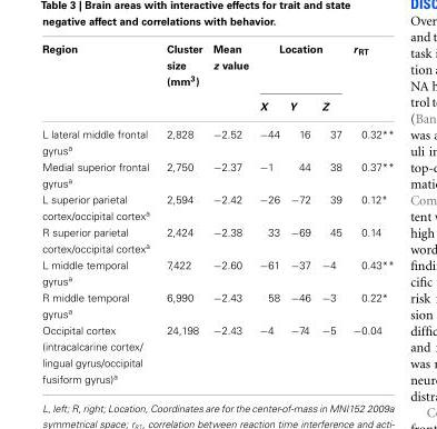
<table><thead><tr><td rowspan="2">Region</td><td rowspan="2">Cluster size (mm<sup>3</sup>)</td><td rowspan="2">Mean z value</td><td colspan="3">Location</td><td rowspan="2">r <sub>RT</sub></td></tr><tr><td>X</td><td>Y</td><td>Z</td></tr></thead><tbody><tr><td>L lateral middle frontal gyrus<sup>a</sup></td><td>2,828</td><td>−2.52</td><td>−44</td><td>16</td><td>37</td><td>0.32**</td></tr><tr><td>Medial superior frontal gyrus<sup>a</sup></td><td>2,750</td><td>−2.37</td><td>−1</td><td>44</td><td>38</td><td>0.37**</td></tr><tr><td>L superior parietal cortex/occipital cortex<sup>a</sup></td><td>2,594</td><td>−2.42</td><td>−26</td><td>−72</td><td>39</td><td>0.12*</td></tr><tr><td>R superior parietal cortex/occipital cortex<sup>a</sup></td><td>2,424</td><td>−2.38</td><td>33</td><td>−69</td><td>45</td><td>0.14</td></tr><tr><td>L middle temporal gyrus<sup>a</sup></td><td>7,422</td><td>−2.60</td><td>−61</td><td>−37</td><td>−4</td><td>0.43**</td></tr><tr><td>R middle temporal gyrus<sup>a</sup></td><td>6,990</td><td>−2.43</td><td>58</td><td>−46</td><td>−3</td><td>0.22*</td></tr><tr><td>Occipital cortex (intracalcarine cortex/ lingual gyrus/occipital fusiform gyrus)<sup>a</sup></td><td>24,198</td><td>−2.43</td><td>−4</td><td>−74</td><td>−5</td><td>−0.04</td></tr></tbody></table>